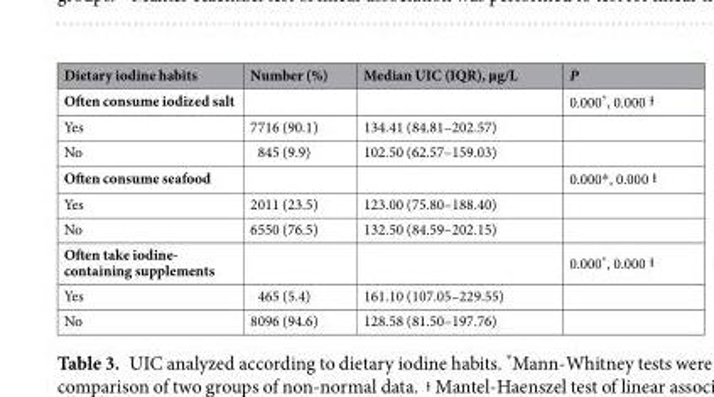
<table><thead><tr><td>Dietary iodine habits</td><td>Number (%)</td><td>Median UIC (IQR), µg/L</td><td>P</td></tr></thead><tbody><tr><td>Often consume iodized salt</td><td></td><td></td><td>0.000*, 0.000</td></tr><tr><td>Yes</td><td>7716 (90.1)</td><td>134.41 (84.81–202.57)</td><td></td></tr><tr><td>No</td><td>845 (9.9)</td><td>102.50 (62.57–159.03)</td><td></td></tr><tr><td>Often consume seafood</td><td></td><td></td><td>0.000*, 0.000</td></tr><tr><td>Yes</td><td>2011 (23.5)</td><td>123.00 (75.80–188.40)</td><td></td></tr><tr><td>No</td><td>6550 (76.5)</td><td>132.50 (84.59–202.15)</td><td></td></tr><tr><td>Often take iodine- containing supplements</td><td></td><td></td><td>0.000*, 0.000</td></tr><tr><td>Yes</td><td>465 (5.4)</td><td>161.10 (107.05–229.55)</td><td></td></tr><tr><td>No</td><td>8096 (94.6)</td><td>128.58 (81.50–197.76)</td><td></td></tr></tbody></table>